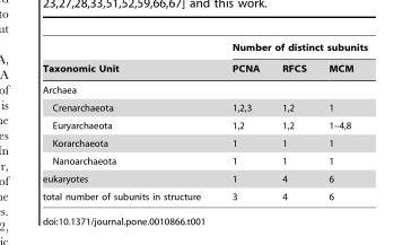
<table><thead><tr><td rowspan="2">Taxonomic Unit</td><td colspan="3">Number of distinct subunits</td></tr><tr><td>PCNA</td><td>RFCS</td><td>MCM</td></tr></thead><tbody><tr><td colspan="4">Archaea</td></tr><tr><td>Crenarchaeota</td><td>1,2,3</td><td>1,2</td><td>1</td></tr><tr><td>Euryarchaeota</td><td>1,2</td><td>1,2</td><td>1–4,8</td></tr><tr><td>Korarchaeota</td><td>1</td><td>1</td><td>1</td></tr><tr><td>Nanoarchaeota</td><td>1</td><td>1</td><td>1</td></tr><tr><td>eukaryotes</td><td>1</td><td>4</td><td>6</td></tr><tr><td>total number of subunits in structure</td><td>3</td><td>4</td><td>6</td></tr></tbody></table>